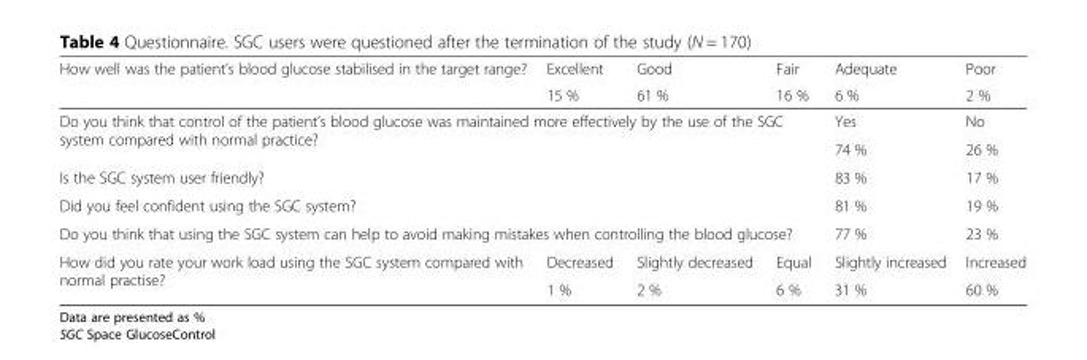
<table><thead><tr><td rowspan="2">How well was the patient’s blood glucose stabilised in the target range?</td><td rowspan="2">Excellent 15 %</td><td rowspan="2">Good 61 %</td><td rowspan="2">Fair 16 %</td><td rowspan="2">Adequate 6 %</td><td rowspan="2">Poor 2 %</td></tr><tr></tr></thead><tbody><tr><td rowspan="2" colspan="4">Do you think that control of the patient’s blood glucose was maintained more effectively by the use of the SGC system compared with normal practice?</td><td>Yes</td><td>No</td></tr><tr><td>74 %</td><td>26 %</td></tr><tr><td colspan="4">Is the SGC system user friendly?</td><td>83 %</td><td>17 %</td></tr><tr><td colspan="4">Did you feel confident using the SGC system?</td><td>81 %</td><td>19 %</td></tr><tr><td colspan="4">Do you think that using the SGC system can help to avoid making mistakes when controlling the blood glucose?</td><td>77 %</td><td>23 %</td></tr><tr><td rowspan="2">How did you rate your work load using the SGC system compared with normal practise?</td><td>Decreased</td><td>Slightly decreased</td><td>Equal</td><td>Slightly increased</td><td>Increased</td></tr><tr><td>1 %</td><td>2 %</td><td>6 %</td><td>31 %</td><td>60 %</td></tr></tbody></table>